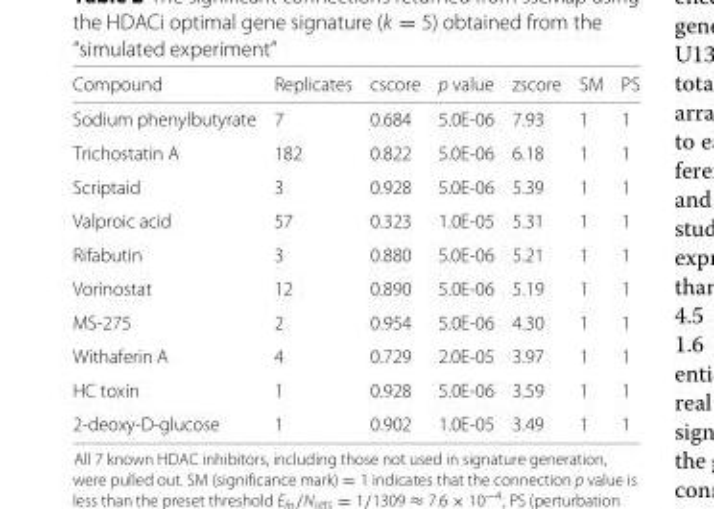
<table><thead><tr><td>Compound</td><td>Replicates</td><td>cscore</td><td>p value</td><td>zscore</td><td>SM</td><td>PS</td></tr></thead><tbody><tr><td>Sodium phenylbutyrate</td><td>7</td><td>0.684</td><td>5.0E-06</td><td>7.93</td><td>1</td><td>1</td></tr><tr><td>Trichostatin A</td><td>182</td><td>0.822</td><td>5.0E-06</td><td>6.18</td><td>1</td><td>1</td></tr><tr><td>Scriptaid</td><td>3</td><td>0.928</td><td>5.0E-06</td><td>5.39</td><td>1</td><td>1</td></tr><tr><td>Valproic acid</td><td>57</td><td>0.323</td><td>1.0E-05</td><td>5.31</td><td>1</td><td>1</td></tr><tr><td>Rifabutin</td><td>3</td><td>0.880</td><td>5.0E-06</td><td>5.21</td><td>1</td><td>1</td></tr><tr><td>Vorinostat</td><td>12</td><td>0.890</td><td>5.0E-06</td><td>5.19</td><td>1</td><td>1</td></tr><tr><td>MS-275</td><td>2</td><td>0.954</td><td>5.0E-06</td><td>4.30</td><td>1</td><td>1</td></tr><tr><td>Withaferin A</td><td>4</td><td>0.729</td><td>2.0E-05</td><td>3.97</td><td>1</td><td>1</td></tr><tr><td>HC toxin</td><td>1</td><td>0.928</td><td>5.0E-06</td><td>3.59</td><td>1</td><td>1</td></tr><tr><td>2-deoxy-D-glucose</td><td>1</td><td>0.902</td><td>1.0E-05</td><td>3.49</td><td>1</td><td>1</td></tr></tbody></table>